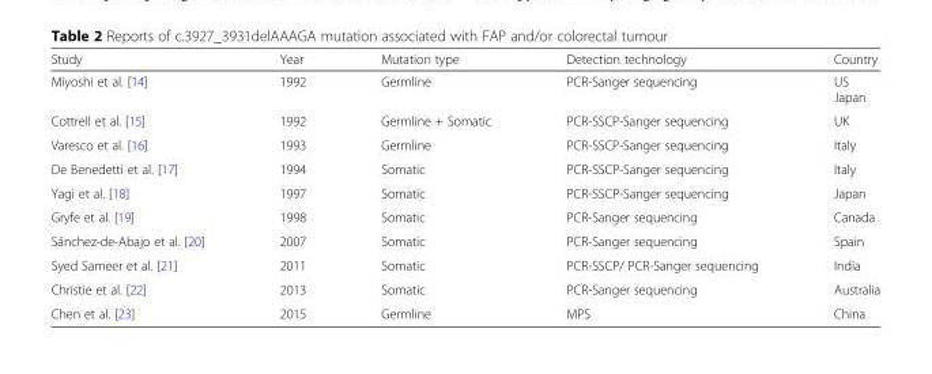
<table><thead><tr><td>Study</td><td>Year</td><td>Mutation type</td><td>Detection technology</td><td>Country</td></tr></thead><tbody><tr><td>Miyoshi et al. [14]</td><td>1992</td><td>Germline</td><td>PCR-Sanger sequencing</td><td>US Japan</td></tr><tr><td>Cottrell et al. [15]</td><td>1992</td><td>Germline + Somatic</td><td>PCR-SSCP-Sanger sequencing</td><td>UK</td></tr><tr><td>Varesco et al. [16]</td><td>1993</td><td>Germline</td><td>PCR-SSCP-Sanger sequencing</td><td>Italy</td></tr><tr><td>De Benedetti et al. [17]</td><td>1994</td><td>Somatic</td><td>PCR-SSCP-Sanger sequencing</td><td>Italy</td></tr><tr><td>Yagi et al. [18]</td><td>1997</td><td>Somatic</td><td>PCR-SSCP-Sanger sequencing</td><td>Japan</td></tr><tr><td>Gryfe et al. [19]</td><td>1998</td><td>Somatic</td><td>PCR-Sanger sequencing</td><td>Canada</td></tr><tr><td>Sánchez-de-Abajo et al. [20]</td><td>2007</td><td>Somatic</td><td>PCR-Sanger sequencing</td><td>Spain</td></tr><tr><td>Syed Sameer et al. [21]</td><td>2011</td><td>Somatic</td><td>PCR-SSCP/ PCR-Sanger sequencing</td><td>India</td></tr><tr><td>Christie et al. [22]</td><td>2013</td><td>Somatic</td><td>PCR-Sanger sequencing</td><td>Australia</td></tr><tr><td>Chen et al. [23]</td><td>2015</td><td>Germline</td><td>MPS</td><td>China</td></tr></tbody></table>